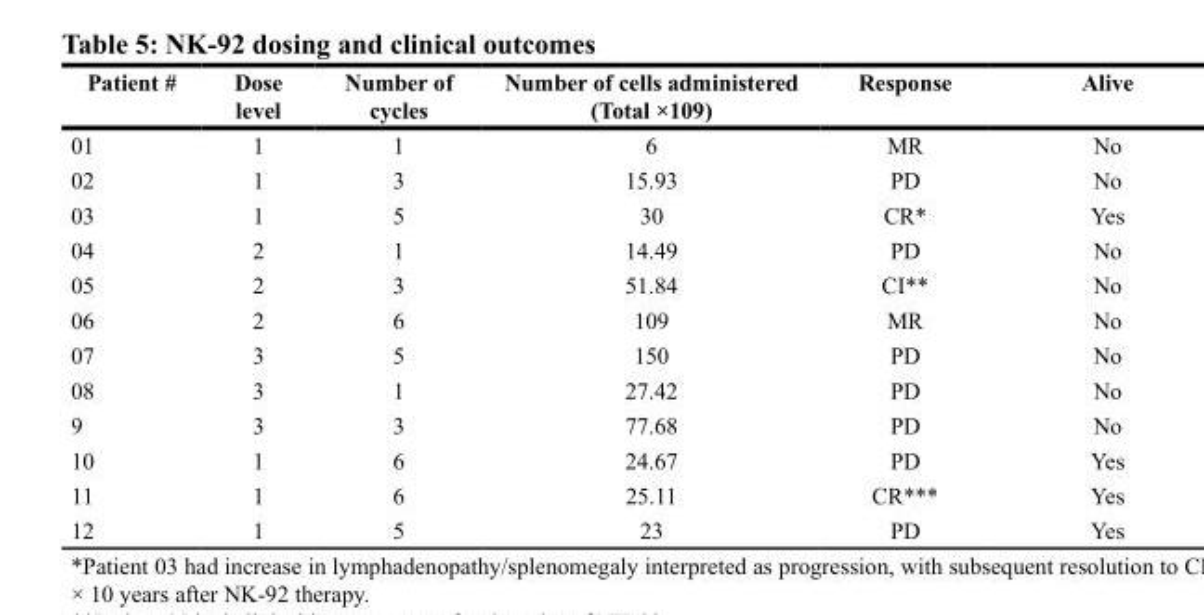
<table><thead><tr><td>Patient #</td><td>Dose level</td><td>Number of cycles</td><td>Number of cells administered (Total ×109)</td><td>Response</td><td>Alive</td></tr></thead><tbody><tr><td>01</td><td>1</td><td>1</td><td>6</td><td>MR</td><td>No</td></tr><tr><td>02</td><td>1</td><td>3</td><td>15.93</td><td>PD</td><td>No</td></tr><tr><td>03</td><td>1</td><td>5</td><td>30</td><td>CR*</td><td>Yes</td></tr><tr><td>04</td><td>2</td><td>1</td><td>14.49</td><td>PD</td><td>No</td></tr><tr><td>05</td><td>2</td><td>3</td><td>51.84</td><td>CI**</td><td>No</td></tr><tr><td>06</td><td>2</td><td>6</td><td>109</td><td>MR</td><td>No</td></tr><tr><td>07</td><td>3</td><td>5</td><td>150</td><td>PD</td><td>No</td></tr><tr><td>08</td><td>3</td><td>1</td><td>27.42</td><td>PD</td><td>No</td></tr><tr><td>9</td><td>3</td><td>3</td><td>77.68</td><td>PD</td><td>No</td></tr><tr><td>10</td><td>1</td><td>6</td><td>24.67</td><td>PD</td><td>Yes</td></tr><tr><td>11</td><td>1</td><td>6</td><td>25.11</td><td>CR***</td><td>Yes</td></tr><tr><td>12</td><td>1</td><td>5</td><td>23</td><td>PD</td><td>Yes</td></tr></tbody></table>